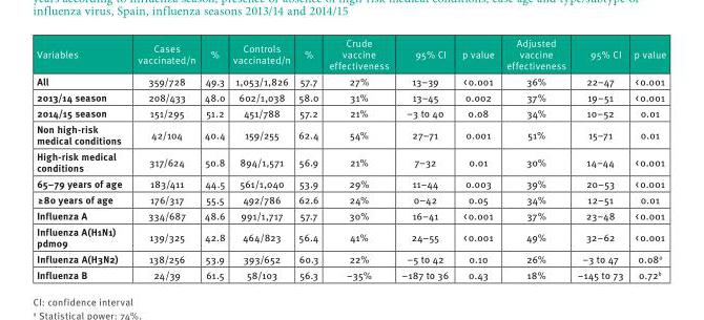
<table><thead><tr><td>Variables</td><td>Cases vaccinated/n</td><td>%</td><td>Controls vaccinated/n</td><td>%</td><td>Crude vaccine effectiveness</td><td>95% CI</td><td>p value</td><td>Adjusted vaccine effectiveness</td><td>95% CI</td><td>p value</td></tr></thead><tbody><tr><td>All</td><td>359/728</td><td>49.3</td><td>1,053/1,826</td><td>57.7</td><td>27%</td><td>13–39</td><td>&lt; 0.001</td><td>36%</td><td>22–47</td><td>&lt; 0.001</td></tr><tr><td>2013/14 season</td><td>208/433</td><td>48.0</td><td>602/1,038</td><td>58.0</td><td>31%</td><td>13–45</td><td>0.002</td><td>37%</td><td>19–51</td><td>&lt; 0.001</td></tr><tr><td>2014/15 season</td><td>151/295</td><td>51.2</td><td>451/788</td><td>57.2</td><td>21%</td><td>−3 to 40</td><td>0.08</td><td>34%</td><td>10–52</td><td>0.01</td></tr><tr><td>Non high-risk medical conditions</td><td>42/104</td><td>40.4</td><td>159/255</td><td>62.4</td><td>54%</td><td>27–71</td><td>0.001</td><td>51%</td><td>15–71</td><td>0.01</td></tr><tr><td>High-risk medical conditions</td><td>317/624</td><td>50.8</td><td>894/1,571</td><td>56.9</td><td>21%</td><td>7–32</td><td>0.01</td><td>30%</td><td>14–44</td><td>&lt; 0.001</td></tr><tr><td>65–79 years of age</td><td>183/411</td><td>44.5</td><td>561/1,040</td><td>53.9</td><td>29%</td><td>11–44</td><td>0.003</td><td>39%</td><td>20–53</td><td>&lt; 0.001</td></tr><tr><td>≥ 80 years of age</td><td>176/317</td><td>55.5</td><td>492/786</td><td>62.6</td><td>24%</td><td>0–42</td><td>0.05</td><td>34%</td><td>12–51</td><td>0.01</td></tr><tr><td>Influenza A</td><td>334/687</td><td>48.6</td><td>991/1,717</td><td>57.7</td><td>30%</td><td>16–41</td><td>&lt; 0.001</td><td>37%</td><td>23–48</td><td>&lt; 0.001</td></tr><tr><td>Influenza A(H1N1) pdm09</td><td>139/325</td><td>42.8</td><td>464/823</td><td>56.4</td><td>41%</td><td>24–55</td><td>&lt; 0.001</td><td>49%</td><td>32–62</td><td>&lt; 0.001</td></tr><tr><td>Influenza A(H3N2)</td><td>138/256</td><td>53.9</td><td>393/652</td><td>60.3</td><td>22%</td><td>−5 to 42</td><td>0.10</td><td>26%</td><td>−3 to 47</td><td>0.08<sup>a</sup></td></tr><tr><td>Influenza B</td><td>24/39</td><td>61.5</td><td>58/103</td><td>56.3</td><td>−35%</td><td>−187 to 36</td><td>0.43</td><td>18%</td><td>−145 to 73</td><td>0.72<sup>b</sup></td></tr></tbody></table>